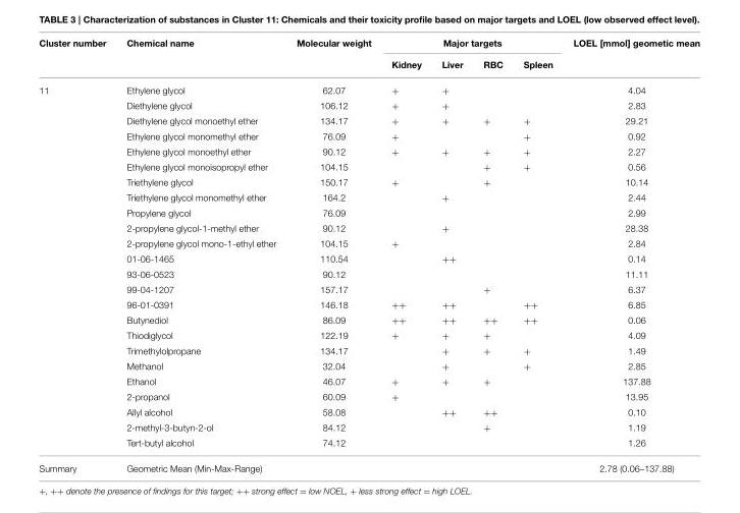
<table><thead><tr><td rowspan="2">Cluster number</td><td rowspan="2">Chemical name</td><td rowspan="2">Molecular weight</td><td colspan="4">Major targets</td><td rowspan="2">LOEL [mmol] geometic mean</td></tr><tr><td>Kidney</td><td>Liver</td><td>RBC</td><td>Spleen</td></tr></thead><tbody><tr><td rowspan="24">11</td><td>Ethylene glycol</td><td>62.07</td><td>+</td><td>+</td><td></td><td></td><td>4.04</td></tr><tr><td>Diethylene glycol</td><td>106.12</td><td>+</td><td>+</td><td></td><td></td><td>2.83</td></tr><tr><td>Diethylene glycol monoethyl ether</td><td>134.17</td><td>+</td><td>+</td><td>+</td><td>+</td><td>29.21</td></tr><tr><td>Ethylene glycol monomethyl ether</td><td>76.09</td><td>+</td><td></td><td></td><td>+</td><td>0.92</td></tr><tr><td>Ethylene glycol monoethyl ether</td><td>90.12</td><td>+</td><td>+</td><td>+</td><td>+</td><td>2.27</td></tr><tr><td>Ethylene glycol monoisopropyl ether</td><td>104.15</td><td></td><td></td><td>+</td><td>+</td><td>0.56</td></tr><tr><td>Triethylene glycol</td><td>150.17</td><td>+</td><td></td><td>+</td><td></td><td>10.14</td></tr><tr><td>Triethylene glycol monomethyl ether</td><td>164.2</td><td></td><td>+</td><td></td><td></td><td>2.44</td></tr><tr><td>Propylene glycol</td><td>76.09</td><td></td><td></td><td></td><td></td><td>2.99</td></tr><tr><td>2-propylene glycol-1-methyl ether</td><td>90.12</td><td></td><td>+</td><td></td><td></td><td>28.38</td></tr><tr><td>2-propylene glycol mono-1-ethyl ether</td><td>104.15</td><td>+</td><td></td><td></td><td></td><td>2.84</td></tr><tr><td>01-06-1465</td><td>110.54</td><td></td><td>++</td><td></td><td></td><td>0.14</td></tr><tr><td>93-06-0523</td><td>90.12</td><td></td><td></td><td></td><td></td><td>11.11</td></tr><tr><td>99-04-1207</td><td>157.17</td><td></td><td></td><td>+</td><td></td><td>6.37</td></tr><tr><td>96-01-0391</td><td>146.18</td><td>++</td><td>++</td><td></td><td>++</td><td>6.85</td></tr><tr><td>Butynediol</td><td>86.09</td><td>++</td><td>++</td><td>++</td><td>++</td><td>0.06</td></tr><tr><td>Thiodiglycol</td><td>122.19</td><td>+</td><td>+</td><td>+</td><td></td><td>4.09</td></tr><tr><td>Trimethylolpropane</td><td>134.17</td><td></td><td>+</td><td>+</td><td>+</td><td>1.49</td></tr><tr><td>Methanol</td><td>32.04</td><td></td><td>+</td><td></td><td>+</td><td>2.85</td></tr><tr><td>Ethanol</td><td>46.07</td><td>+</td><td>+</td><td>+</td><td></td><td>137.88</td></tr><tr><td>2-propanol</td><td>60.09</td><td>+</td><td></td><td></td><td></td><td>13.95</td></tr><tr><td>Allyl alcohol</td><td>58.08</td><td></td><td>++</td><td>++</td><td></td><td>0.10</td></tr><tr><td>2-methyl-3-butyn-2-ol</td><td>84.12</td><td></td><td></td><td>+</td><td></td><td>1.19</td></tr><tr><td>Tert-butyl alcohol</td><td>74.12</td><td></td><td></td><td></td><td></td><td>1.26</td></tr><tr><td>Summary</td><td>Geometric Mean (Min-Max-Range)</td><td></td><td></td><td></td><td></td><td></td><td>2.78 (0.06–137.88)</td></tr></tbody></table>